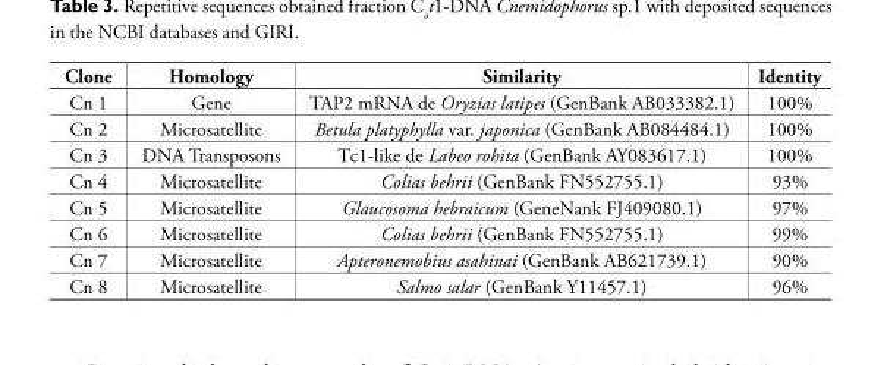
<table><thead><tr><td>Clone</td><td>Homology</td><td>Similarity</td><td>Identity</td></tr></thead><tbody><tr><td>Cn 1</td><td>Gene</td><td>TAP2 mRNA de Oryzias latipes (GenBank AB033382.1)</td><td>100%</td></tr><tr><td>Cn 2</td><td>Microsatellite</td><td>Betula platyphylla var. japonica (GenBank AB084484.1)</td><td>100%</td></tr><tr><td>Cn 3</td><td>DNA Transposons</td><td>Tc1-like de Labeo rohita (GenBank AY083617.1)</td><td>100%</td></tr><tr><td>Cn 4</td><td>Microsatellite</td><td>Colias behrii (GenBank FN552755.1)</td><td>93%</td></tr><tr><td>Cn 5</td><td>Microsatellite</td><td>Glaucosoma hebraicum (GeneNank FJ409080.1)</td><td>97%</td></tr><tr><td>Cn 6</td><td>Microsatellite</td><td>Colias behrii (GenBank FN552755.1)</td><td>99%</td></tr><tr><td>Cn 7</td><td>Microsatellite</td><td>Apteronemobius asahinai (GenBank AB621739.1)</td><td>90%</td></tr><tr><td>Cn 8</td><td>Microsatellite</td><td>Salmo salar (GenBank Y11457.1)</td><td>96%</td></tr></tbody></table>